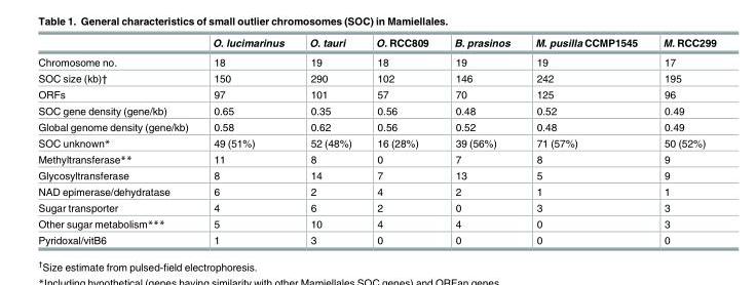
<table><thead><tr><td></td><td>O. lucimarinus</td><td>O. tauri</td><td>O. RCC809</td><td>B. prasinos</td><td>M. pusilla CCMP1545</td><td>M. RCC299</td></tr></thead><tbody><tr><td>Chromosome no.</td><td>18</td><td>19</td><td>18</td><td>19</td><td>19</td><td>17</td></tr><tr><td>SOC size (kb)†</td><td>150</td><td>290</td><td>102</td><td>146</td><td>242</td><td>195</td></tr><tr><td>ORFs</td><td>97</td><td>101</td><td>57</td><td>70</td><td>125</td><td>96</td></tr><tr><td>SOC gene density (gene/kb)</td><td>0.65</td><td>0.35</td><td>0.56</td><td>0.48</td><td>0.52</td><td>0.49</td></tr><tr><td>Global genome density (gene/kb)</td><td>0.58</td><td>0.62</td><td>0.56</td><td>0.52</td><td>0.48</td><td>0.49</td></tr><tr><td>SOC unknown*</td><td>49 (51%)</td><td>52 (48%)</td><td>16 (28%)</td><td>39 (56%)</td><td>71 (57%)</td><td>50 (52%)</td></tr><tr><td>Methyltransferase**</td><td>11</td><td>8</td><td>0</td><td>7</td><td>8</td><td>9</td></tr><tr><td>Glycosyltransferase</td><td>8</td><td>14</td><td>7</td><td>13</td><td>5</td><td>9</td></tr><tr><td>NAD epimerase/dehydratase</td><td>6</td><td>2</td><td>4</td><td>2</td><td>1</td><td>1</td></tr><tr><td>Sugar transporter</td><td>4</td><td>6</td><td>2</td><td>0</td><td>3</td><td>3</td></tr><tr><td>Other sugar metabolism***</td><td>5</td><td>10</td><td>4</td><td>4</td><td>0</td><td>3</td></tr><tr><td>Pyridoxal/vitB6</td><td>1</td><td>3</td><td>0</td><td>0</td><td>0</td><td>0</td></tr></tbody></table>